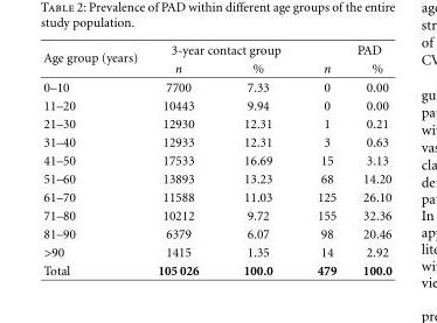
<table><thead><tr><td rowspan="2">Age group (years)</td><td colspan="2">3-year contact group</td><td colspan="2">PAD</td></tr><tr><td>n</td><td>%</td><td>n</td><td>%</td></tr></thead><tbody><tr><td>0–10</td><td>7700</td><td>7.33</td><td>0</td><td>0.00</td></tr><tr><td>11–20</td><td>10443</td><td>9.94</td><td>0</td><td>0.00</td></tr><tr><td>21–30</td><td>12930</td><td>12.31</td><td>1</td><td>0.21</td></tr><tr><td>31–40</td><td>12933</td><td>12.31</td><td>3</td><td>0.63</td></tr><tr><td>41–50</td><td>17533</td><td>16.69</td><td>15</td><td>3.13</td></tr><tr><td>51–60</td><td>13893</td><td>13.23</td><td>68</td><td>14.20</td></tr><tr><td>61–70</td><td>11588</td><td>11.03</td><td>125</td><td>26.10</td></tr><tr><td>71–80</td><td>10212</td><td>9.72</td><td>155</td><td>32.36</td></tr><tr><td>81–90</td><td>6379</td><td>6.07</td><td>98</td><td>20.46</td></tr><tr><td>&gt;90</td><td>1415</td><td>1.35</td><td>14</td><td>2.92</td></tr><tr><td>Total</td><td>105 026</td><td>100.0</td><td>479</td><td>100.0</td></tr></tbody></table>